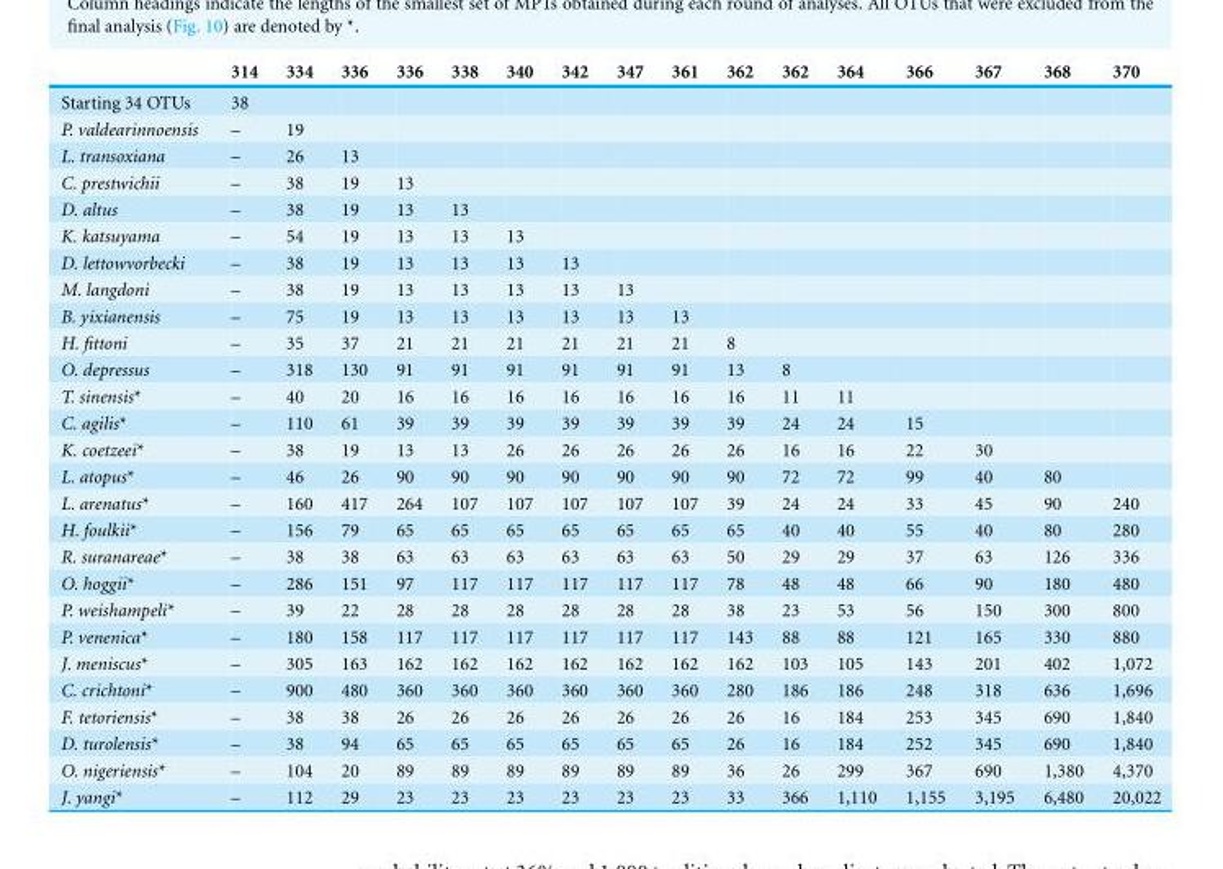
<table><thead><tr><td></td><td>314</td><td>334</td><td>336</td><td>336</td><td>338</td><td>340</td><td>342</td><td>347</td><td>361</td><td>362</td><td>362</td><td>364</td><td>366</td><td>367</td><td>368</td><td>370</td></tr></thead><tbody><tr><td>Starting 34 OTUs</td><td>38</td><td></td><td></td><td></td><td></td><td></td><td></td><td></td><td></td><td></td><td></td><td></td><td></td><td></td><td></td><td></td></tr><tr><td>P. valdearinnoensis</td><td>–</td><td>19</td><td></td><td></td><td></td><td></td><td></td><td></td><td></td><td></td><td></td><td></td><td></td><td></td><td></td><td></td></tr><tr><td>L. transoxiana</td><td>–</td><td>26</td><td>13</td><td></td><td></td><td></td><td></td><td></td><td></td><td></td><td></td><td></td><td></td><td></td><td></td><td></td></tr><tr><td>C. prestwichii</td><td>–</td><td>38</td><td>19</td><td>13</td><td></td><td></td><td></td><td></td><td></td><td></td><td></td><td></td><td></td><td></td><td></td><td></td></tr><tr><td>D. altus</td><td>–</td><td>38</td><td>19</td><td>13</td><td>13</td><td></td><td></td><td></td><td></td><td></td><td></td><td></td><td></td><td></td><td></td><td></td></tr><tr><td>K. katsuyama</td><td>–</td><td>54</td><td>19</td><td>13</td><td>13</td><td>13</td><td></td><td></td><td></td><td></td><td></td><td></td><td></td><td></td><td></td><td></td></tr><tr><td>D. lettowvorbecki</td><td>–</td><td>38</td><td>19</td><td>13</td><td>13</td><td>13</td><td>13</td><td></td><td></td><td></td><td></td><td></td><td></td><td></td><td></td><td></td></tr><tr><td>M. langdoni</td><td>–</td><td>38</td><td>19</td><td>13</td><td>13</td><td>13</td><td>13</td><td>13</td><td></td><td></td><td></td><td></td><td></td><td></td><td></td><td></td></tr><tr><td>B. yixianensis</td><td>–</td><td>75</td><td>19</td><td>13</td><td>13</td><td>13</td><td>13</td><td>13</td><td>13</td><td></td><td></td><td></td><td></td><td></td><td></td><td></td></tr><tr><td>H. fittoni</td><td>–</td><td>35</td><td>37</td><td>21</td><td>21</td><td>21</td><td>21</td><td>21</td><td>21</td><td>8</td><td></td><td></td><td></td><td></td><td></td><td></td></tr><tr><td>O. depressus</td><td>–</td><td>318</td><td>130</td><td>91</td><td>91</td><td>91</td><td>91</td><td>91</td><td>91</td><td>13</td><td>8</td><td></td><td></td><td></td><td></td><td></td></tr><tr><td>T. sinensis*</td><td>–</td><td>40</td><td>20</td><td>16</td><td>16</td><td>16</td><td>16</td><td>16</td><td>16</td><td>16</td><td>11</td><td>11</td><td></td><td></td><td></td><td></td></tr><tr><td>C. agilis*</td><td>–</td><td>110</td><td>61</td><td>39</td><td>39</td><td>39</td><td>39</td><td>39</td><td>39</td><td>39</td><td>24</td><td>24</td><td>15</td><td></td><td></td><td></td></tr><tr><td>K. coetzeei*</td><td>–</td><td>38</td><td>19</td><td>13</td><td>13</td><td>26</td><td>26</td><td>26</td><td>26</td><td>26</td><td>16</td><td>16</td><td>22</td><td>30</td><td></td><td></td></tr><tr><td>L. atopus*</td><td>–</td><td>46</td><td>26</td><td>90</td><td>90</td><td>90</td><td>90</td><td>90</td><td>90</td><td>90</td><td>72</td><td>72</td><td>99</td><td>40</td><td>80</td><td></td></tr><tr><td>L. arenatus*</td><td>–</td><td>160</td><td>417</td><td>264</td><td>107</td><td>107</td><td>107</td><td>107</td><td>107</td><td>39</td><td>24</td><td>24</td><td>33</td><td>45</td><td>90</td><td>240</td></tr><tr><td>H. foulkii*</td><td>–</td><td>156</td><td>79</td><td>65</td><td>65</td><td>65</td><td>65</td><td>65</td><td>65</td><td>65</td><td>40</td><td>40</td><td>55</td><td>40</td><td>80</td><td>280</td></tr><tr><td>R. suranareae*</td><td>–</td><td>38</td><td>38</td><td>63</td><td>63</td><td>63</td><td>63</td><td>63</td><td>63</td><td>50</td><td>29</td><td>29</td><td>37</td><td>63</td><td>126</td><td>336</td></tr><tr><td>O. hoggii*</td><td>–</td><td>286</td><td>151</td><td>97</td><td>117</td><td>117</td><td>117</td><td>117</td><td>117</td><td>78</td><td>48</td><td>48</td><td>66</td><td>90</td><td>180</td><td>480</td></tr><tr><td>P. weishampeli*</td><td>–</td><td>39</td><td>22</td><td>28</td><td>28</td><td>28</td><td>28</td><td>28</td><td>28</td><td>38</td><td>23</td><td>53</td><td>56</td><td>150</td><td>300</td><td>800</td></tr><tr><td>P. venenica*</td><td>–</td><td>180</td><td>158</td><td>117</td><td>117</td><td>117</td><td>117</td><td>117</td><td>117</td><td>143</td><td>88</td><td>88</td><td>121</td><td>165</td><td>330</td><td>880</td></tr><tr><td>J. meniscus*</td><td>–</td><td>305</td><td>163</td><td>162</td><td>162</td><td>162</td><td>162</td><td>162</td><td>162</td><td>162</td><td>103</td><td>105</td><td>143</td><td>201</td><td>402</td><td>1,072</td></tr><tr><td>C. crichtoni*</td><td>–</td><td>900</td><td>480</td><td>360</td><td>360</td><td>360</td><td>360</td><td>360</td><td>360</td><td>280</td><td>186</td><td>186</td><td>248</td><td>318</td><td>636</td><td>1,696</td></tr><tr><td>F. tetoriensis*</td><td>–</td><td>38</td><td>38</td><td>26</td><td>26</td><td>26</td><td>26</td><td>26</td><td>26</td><td>26</td><td>16</td><td>184</td><td>253</td><td>345</td><td>690</td><td>1,840</td></tr><tr><td>D. turolensis*</td><td>–</td><td>38</td><td>94</td><td>65</td><td>65</td><td>65</td><td>65</td><td>65</td><td>65</td><td>26</td><td>16</td><td>184</td><td>252</td><td>345</td><td>690</td><td>1,840</td></tr><tr><td>O. nigeriensis*</td><td>–</td><td>104</td><td>20</td><td>89</td><td>89</td><td>89</td><td>89</td><td>89</td><td>89</td><td>36</td><td>26</td><td>299</td><td>367</td><td>690</td><td>1,380</td><td>4,370</td></tr><tr><td>J. yangi*</td><td>–</td><td>112</td><td>29</td><td>23</td><td>23</td><td>23</td><td>23</td><td>23</td><td>23</td><td>33</td><td>366</td><td>1,110</td><td>1,155</td><td>3,195</td><td>6,480</td><td>20,022</td></tr></tbody></table>